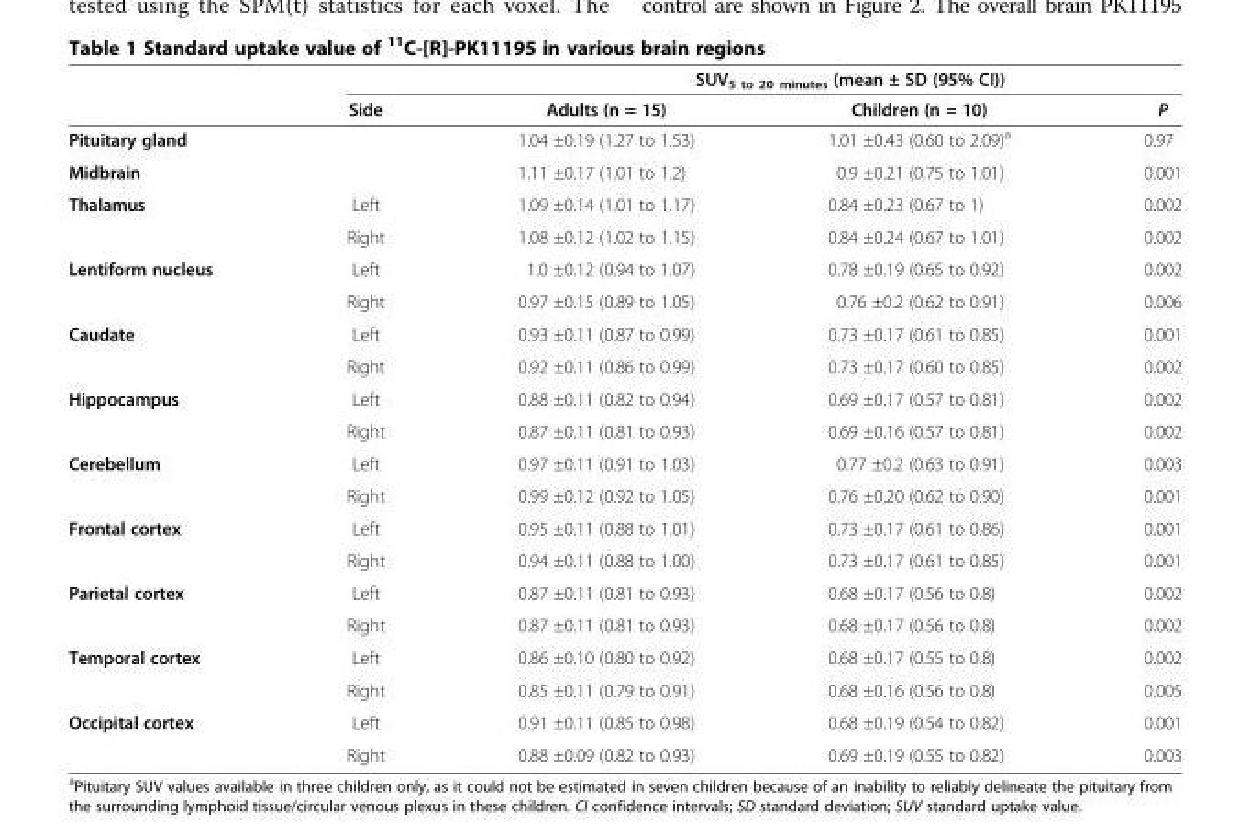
<table><thead><tr><td rowspan="2"></td><td rowspan="2">Side</td><td colspan="3">SUV<sub>5 to 20 minutes</sub> (mean ± SD (95% CI))</td></tr><tr><td>Adults (n = 15)</td><td>Children (n = 10)</td><td>P</td></tr></thead><tbody><tr><td>Pituitary gland</td><td></td><td>1.04 ±0.19 (1.27 to 1.53)</td><td>1.01 ±0.43 (0.60 to 2.09)<sup>a</sup></td><td>0.97</td></tr><tr><td>Midbrain</td><td></td><td>1.11 ±0.17 (1.01 to 1.2)</td><td>0.9 ±0.21 (0.75 to 1.01)</td><td>0.001</td></tr><tr><td rowspan="2">Thalamus</td><td>Left</td><td>1.09 ±0.14 (1.01 to 1.17)</td><td>0.84 ±0.23 (0.67 to 1)</td><td>0.002</td></tr><tr><td>Right</td><td>1.08 ±0.12 (1.02 to 1.15)</td><td>0.84 ±0.24 (0.67 to 1.01)</td><td>0.002</td></tr><tr><td rowspan="2">Lentiform nucleus</td><td>Left</td><td>1.0 ±0.12 (0.94 to 1.07)</td><td>0.78 ±0.19 (0.65 to 0.92)</td><td>0.002</td></tr><tr><td>Right</td><td>0.97 ±0.15 (0.89 to 1.05)</td><td>0.76 ±0.2 (0.62 to 0.91)</td><td>0.006</td></tr><tr><td rowspan="2">Caudate</td><td>Left</td><td>0.93 ±0.11 (0.87 to 0.99)</td><td>0.73 ±0.17 (0.61 to 0.85)</td><td>0.001</td></tr><tr><td>Right</td><td>0.92 ±0.11 (0.86 to 0.99)</td><td>0.73 ±0.17 (0.60 to 0.85)</td><td>0.002</td></tr><tr><td rowspan="2">Hippocampus</td><td>Left</td><td>0.88 ±0.11 (0.82 to 0.94)</td><td>0.69 ±0.17 (0.57 to 0.81)</td><td>0.002</td></tr><tr><td>Right</td><td>0.87 ±0.11 (0.81 to 0.93)</td><td>0.69 ±0.16 (0.57 to 0.81)</td><td>0.002</td></tr><tr><td rowspan="2">Cerebellum</td><td>Left</td><td>0.97 ±0.11 (0.91 to 1.03)</td><td>0.77 ±0.2 (0.63 to 0.91)</td><td>0.003</td></tr><tr><td>Right</td><td>0.99 ±0.12 (0.92 to 1.05)</td><td>0.76 ±0.20 (0.62 to 0.90)</td><td>0.001</td></tr><tr><td rowspan="2">Frontal cortex</td><td>Left</td><td>0.95 ±0.11 (0.88 to 1.01)</td><td>0.73 ±0.17 (0.61 to 0.86)</td><td>0.001</td></tr><tr><td>Right</td><td>0.94 ±0.11 (0.88 to 1.00)</td><td>0.73 ±0.17 (0.61 to 0.85)</td><td>0.001</td></tr><tr><td rowspan="2">Parietal cortex</td><td>Left</td><td>0.87 ±0.11 (0.81 to 0.93)</td><td>0.68 ±0.17 (0.56 to 0.8)</td><td>0.002</td></tr><tr><td>Right</td><td>0.87 ±0.11 (0.81 to 0.93)</td><td>0.68 ±0.17 (0.56 to 0.8)</td><td>0.002</td></tr><tr><td rowspan="2">Temporal cortex</td><td>Left</td><td>0.86 ±0.10 (0.80 to 0.92)</td><td>0.68 ±0.17 (0.55 to 0.8)</td><td>0.002</td></tr><tr><td>Right</td><td>0.85 ±0.11 (0.79 to 0.91)</td><td>0.68 ±0.16 (0.56 to 0.8)</td><td>0.005</td></tr><tr><td rowspan="2">Occipital cortex</td><td>Left</td><td>0.91 ±0.11 (0.85 to 0.98)</td><td>0.68 ±0.19 (0.54 to 0.82)</td><td>0.001</td></tr><tr><td>Right</td><td>0.88 ±0.09 (0.82 to 0.93)</td><td>0.69 ±0.19 (0.55 to 0.82)</td><td>0.003</td></tr></tbody></table>